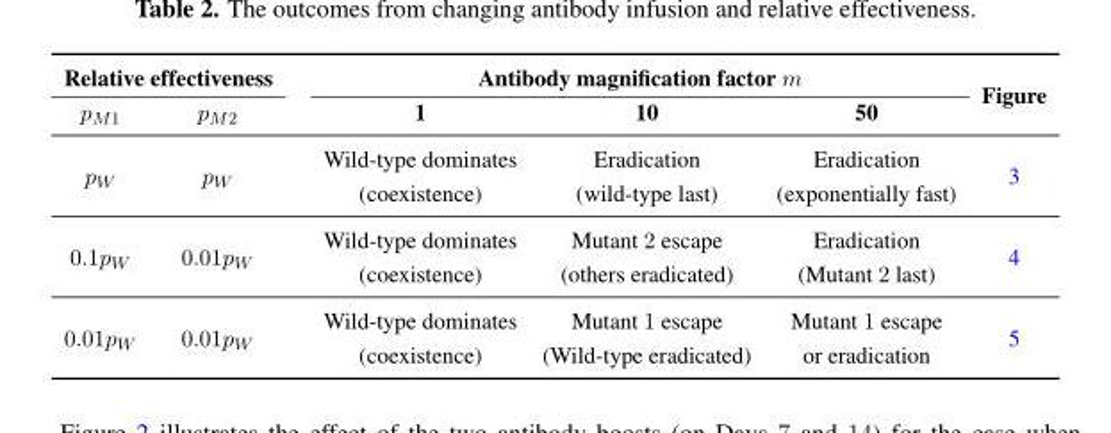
<table><thead><tr><td colspan="2">Relative effectiveness</td><td colspan="3">Antibody magnification factor m</td><td rowspan="2">Figure</td></tr><tr><td>p<sub>M1</sub></td><td>p<sub>M2</sub></td><td>1</td><td>10</td><td>50</td></tr></thead><tbody><tr><td>p<sub>W</sub></td><td>p<sub>W</sub></td><td>Wild-type dominates (coexistence)</td><td>Eradication (wild-type last)</td><td>Eradication (exponentially fast)</td><td>3</td></tr><tr><td>0.1p<sub>W</sub></td><td>0.01p<sub>W</sub></td><td>Wild-type dominates (coexistence)</td><td>Mutant 2 escape (others eradicated)</td><td>Eradication (Mutant 2 last)</td><td>4</td></tr><tr><td>0.01p<sub>W</sub></td><td>0.01p<sub>W</sub></td><td>Wild-type dominates (coexistence)</td><td>Mutant 1 escape (Wild-type eradicated)</td><td>Mutant 1 escape or eradication</td><td>5</td></tr></tbody></table>